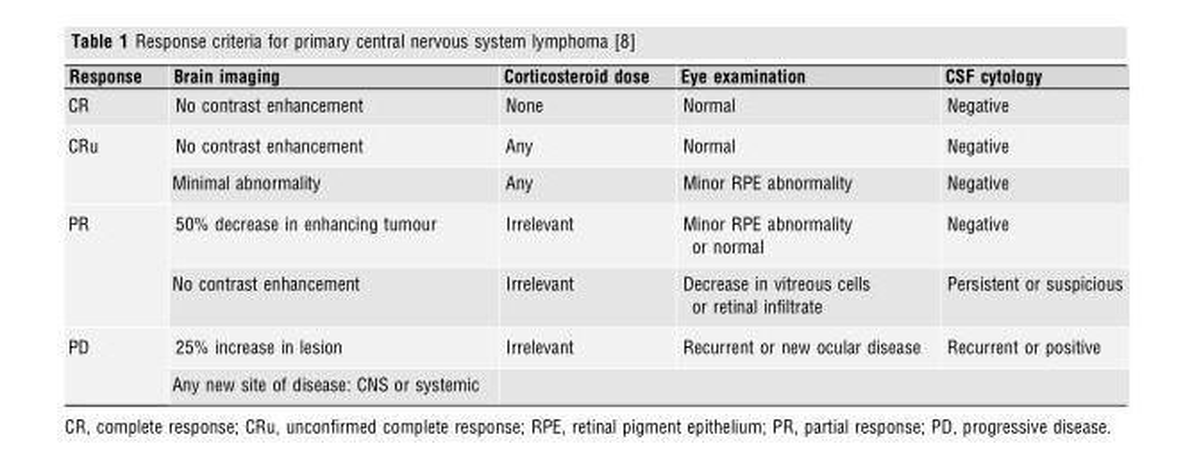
<table><thead><tr><td>Response</td><td>Brain imaging</td><td>Corticosteroid dose</td><td>Eye examination</td><td>CSF cytology</td></tr></thead><tbody><tr><td>CR</td><td>No contrast enhancement</td><td>None</td><td>Normal</td><td>Negative</td></tr><tr><td rowspan="2">CRu</td><td>No contrast enhancement</td><td>Any</td><td>Normal</td><td>Negative</td></tr><tr><td>Minimal abnormality</td><td>Any</td><td>Minor RPE abnormality</td><td>Negative</td></tr><tr><td rowspan="2">PR</td><td>50% decrease in enhancing tumour</td><td>Irrelevant</td><td>Minor RPE abnormality or normal</td><td>Negative</td></tr><tr><td>No contrast enhancement</td><td>Irrelevant</td><td>Decrease in vitreous cells or retinal infiltrate</td><td>Persistent or suspicious</td></tr><tr><td rowspan="2">PD</td><td>25% increase in lesion</td><td>Irrelevant</td><td>Recurrent or new ocular disease</td><td>Recurrent or positive</td></tr><tr><td>Any new site of disease: CNS or systemic</td><td colspan="3"></td></tr></tbody></table>